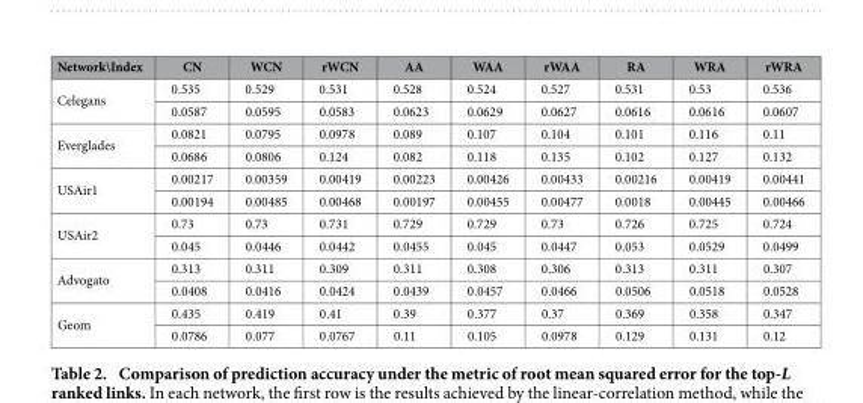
<table><thead><tr><td>Network\Index</td><td>CN</td><td>WCN</td><td>rWCN</td><td>AA</td><td>WAA</td><td>rWAA</td><td>RA</td><td>WRA</td><td>rWRA</td></tr></thead><tbody><tr><td rowspan="2">Celegans</td><td>0.535</td><td>0.529</td><td>0.531</td><td>0.528</td><td>0.524</td><td>0.527</td><td>0.531</td><td>0.53</td><td>0.536</td></tr><tr><td>0.0587</td><td>0.0595</td><td>0.0583</td><td>0.0623</td><td>0.0629</td><td>0.0627</td><td>0.0616</td><td>0.0616</td><td>0.0607</td></tr><tr><td rowspan="2">Everglades</td><td>0.0821</td><td>0.0795</td><td>0.0978</td><td>0.089</td><td>0.107</td><td>0.104</td><td>0.101</td><td>0.116</td><td>0.11</td></tr><tr><td>0.0686</td><td>0.0806</td><td>0.124</td><td>0.082</td><td>0.118</td><td>0.135</td><td>0.102</td><td>0.127</td><td>0.132</td></tr><tr><td rowspan="2">USAir1</td><td>0.00217</td><td>0.00359</td><td>0.00419</td><td>0.00223</td><td>0.00426</td><td>0.00433</td><td>0.00216</td><td>0.00419</td><td>0.00441</td></tr><tr><td>0.00194</td><td>0.00485</td><td>0.00468</td><td>0.00197</td><td>0.00455</td><td>0.00477</td><td>0.0018</td><td>0.00445</td><td>0.00466</td></tr><tr><td rowspan="2">USAir2</td><td>0.73</td><td>0.73</td><td>0.731</td><td>0.729</td><td>0.729</td><td>0.73</td><td>0.726</td><td>0.725</td><td>0.724</td></tr><tr><td>0.045</td><td>0.0446</td><td>0.0442</td><td>0.0455</td><td>0.045</td><td>0.0447</td><td>0.053</td><td>0.0529</td><td>0.0499</td></tr><tr><td rowspan="2">Advogato</td><td>0.313</td><td>0.311</td><td>0.309</td><td>0.311</td><td>0.308</td><td>0.306</td><td>0.313</td><td>0.311</td><td>0.307</td></tr><tr><td>0.0408</td><td>0.0416</td><td>0.0424</td><td>0.0439</td><td>0.0457</td><td>0.0466</td><td>0.0506</td><td>0.0518</td><td>0.0528</td></tr><tr><td rowspan="2">Geom</td><td>0.435</td><td>0.419</td><td>0.41</td><td>0.39</td><td>0.377</td><td>0.37</td><td>0.369</td><td>0.358</td><td>0.347</td></tr><tr><td>0.0786</td><td>0.077</td><td>0.0767</td><td>0.11</td><td>0.105</td><td>0.0978</td><td>0.129</td><td>0.131</td><td>0.12</td></tr></tbody></table>